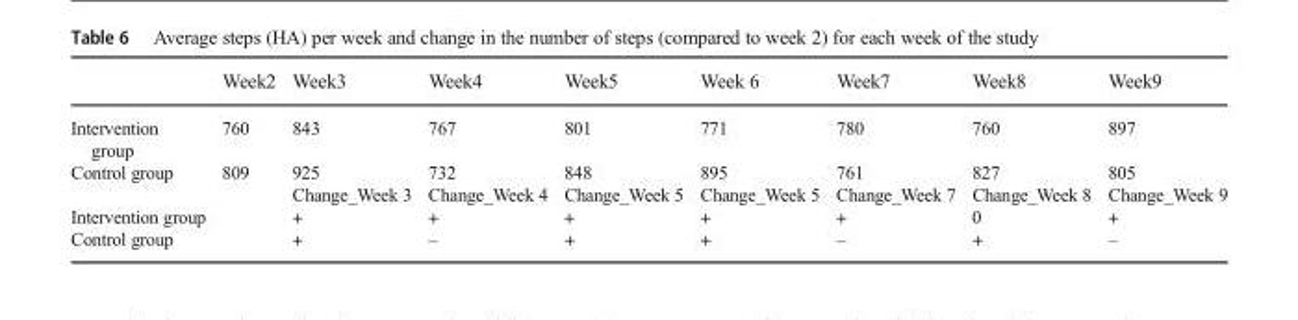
<table><thead><tr><td></td><td>Week2</td><td>Week3</td><td>Week4</td><td>Week5</td><td>Week 6</td><td>Week7</td><td>Week8</td><td>Week9</td></tr></thead><tbody><tr><td>Intervention group</td><td>760</td><td>843</td><td>767</td><td>801</td><td>771</td><td>780</td><td>760</td><td>897</td></tr><tr><td rowspan="2">Control group</td><td>809</td><td>925</td><td>732</td><td>848</td><td>895</td><td>761</td><td>827</td><td>805</td></tr><tr><td></td><td>Change_Week 3</td><td>Change_Week 4</td><td>Change_Week 5</td><td>Change_Week 5</td><td>Change_Week 7</td><td>Change_Week 8</td><td>Change_Week 9</td></tr><tr><td>Intervention group</td><td></td><td>+</td><td>+</td><td>+</td><td>+</td><td>+</td><td>0</td><td>+</td></tr><tr><td>Control group</td><td></td><td>+</td><td>–</td><td>+</td><td>+</td><td>–</td><td>+</td><td>–</td></tr></tbody></table>